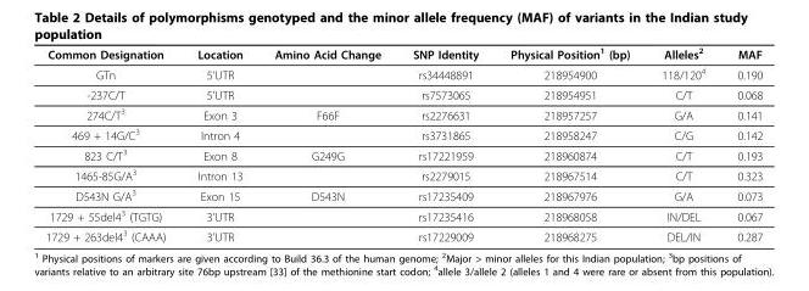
<table><thead><tr><td>Common Designation</td><td>Location</td><td>Amino Acid Change</td><td>SNP Identity</td><td>Physical Position<sup>1</sup> (bp)</td><td>Alleles<sup>2</sup></td><td>MAF</td></tr></thead><tbody><tr><td>GTn</td><td>5’UTR</td><td></td><td>rs34448891</td><td>218954900</td><td>118/120<sup>4</sup></td><td>0.190</td></tr><tr><td>-237C/T</td><td>5’UTR</td><td></td><td>rs7573065</td><td>218954951</td><td>C/T</td><td>0.068</td></tr><tr><td>274C/T<sup>3</sup></td><td>Exon 3</td><td>F66F</td><td>rs2276631</td><td>218957257</td><td>G/A</td><td>0.141</td></tr><tr><td>469 + 14G/C<sup>3</sup></td><td>Intron 4</td><td></td><td>rs3731865</td><td>218958247</td><td>C/G</td><td>0.142</td></tr><tr><td>823 C/T<sup>3</sup></td><td>Exon 8</td><td>G249G</td><td>rs17221959</td><td>218960874</td><td>C/T</td><td>0.193</td></tr><tr><td>1465-85G/A<sup>3</sup></td><td>Intron 13</td><td></td><td>rs2279015</td><td>218967514</td><td>C/T</td><td>0.323</td></tr><tr><td>D543N G/A<sup>3</sup></td><td>Exon 15</td><td>D543N</td><td>rs17235409</td><td>218967976</td><td>G/A</td><td>0.073</td></tr><tr><td>1729 + 55del4<sup>3</sup> (TGTG)</td><td>3’UTR</td><td></td><td>rs17235416</td><td>218968058</td><td>IN/DEL</td><td>0.067</td></tr><tr><td>1729 + 263del4<sup>3</sup> (CAAA)</td><td>3’UTR</td><td></td><td>rs17229009</td><td>218968275</td><td>DEL/IN</td><td>0.287</td></tr></tbody></table>